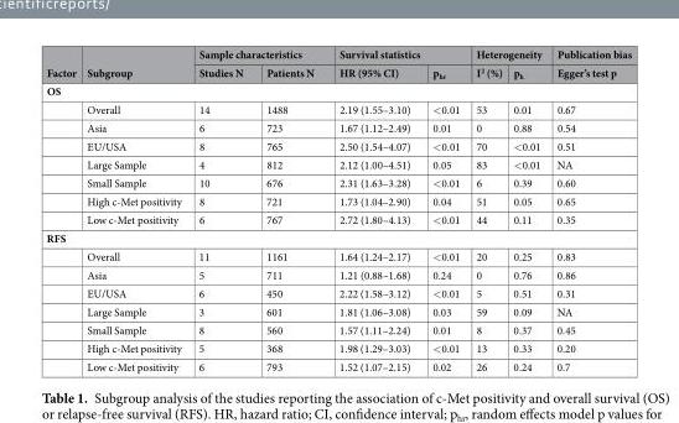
<table><thead><tr><td rowspan="2">Factor</td><td rowspan="2">Subgroup</td><td colspan="2">Sample characteristics</td><td colspan="2">Survival statistics</td><td colspan="2">Heterogeneity</td><td rowspan="2">Publication bias Egger’s test p</td></tr><tr><td>Studies N</td><td>Patients N</td><td>HR (95% CI)</td><td>p<sub>hr</sub></td><td>I<sup>2</sup> (%)</td><td>p<sub>h</sub></td></tr></thead><tbody><tr><td colspan="9">OS</td></tr><tr><td></td><td>Overall</td><td>14</td><td>1488</td><td>2.19 (1.55–3.10)</td><td>&lt;0.01</td><td>53</td><td>0.01</td><td>0.67</td></tr><tr><td></td><td>Asia</td><td>6</td><td>723</td><td>1.67 (1.12–2.49)</td><td>0.01</td><td>0</td><td>0.88</td><td>0.54</td></tr><tr><td></td><td>EU/USA</td><td>8</td><td>765</td><td>2.50 (1.54–4.07)</td><td>&lt;0.01</td><td>70</td><td>&lt;0.01</td><td>0.51</td></tr><tr><td></td><td>Large Sample</td><td>4</td><td>812</td><td>2.12 (1.00–4.51)</td><td>0.05</td><td>83</td><td>&lt;0.01</td><td>NA</td></tr><tr><td></td><td>Small Sample</td><td>10</td><td>676</td><td>2.31 (1.63–3.28)</td><td>&lt;0.01</td><td>6</td><td>0.39</td><td>0.60</td></tr><tr><td></td><td>High c-Met positivity</td><td>8</td><td>721</td><td>1.73 (1.04–2.90)</td><td>0.04</td><td>51</td><td>0.05</td><td>0.65</td></tr><tr><td></td><td>Low c-Met positivity</td><td>6</td><td>767</td><td>2.72 (1.80–4.13)</td><td>&lt;0.01</td><td>44</td><td>0.11</td><td>0.35</td></tr><tr><td colspan="9">RFS</td></tr><tr><td></td><td>Overall</td><td>11</td><td>1161</td><td>1.64 (1.24–2.17)</td><td>&lt;0.01</td><td>20</td><td>0.25</td><td>0.83</td></tr><tr><td></td><td>Asia</td><td>5</td><td>711</td><td>1.21 (0.88–1.68)</td><td>0.24</td><td>0</td><td>0.76</td><td>0.86</td></tr><tr><td></td><td>EU/USA</td><td>6</td><td>450</td><td>2.22 (1.58–3.12)</td><td>&lt;0.01</td><td>5</td><td>0.51</td><td>0.31</td></tr><tr><td></td><td>Large Sample</td><td>3</td><td>601</td><td>1.81 (1.06–3.08)</td><td>0.03</td><td>59</td><td>0.09</td><td>NA</td></tr><tr><td></td><td>Small Sample</td><td>8</td><td>560</td><td>1.57 (1.11–2.24)</td><td>0.01</td><td>8</td><td>0.37</td><td>0.45</td></tr><tr><td></td><td>High c-Met positivity</td><td>5</td><td>368</td><td>1.98 (1.29–3.03)</td><td>&lt;0.01</td><td>13</td><td>0.33</td><td>0.20</td></tr><tr><td></td><td>Low c-Met positivity</td><td>6</td><td>793</td><td>1.52 (1.07–2.15)</td><td>0.02</td><td>26</td><td>0.24</td><td>0.7</td></tr></tbody></table>